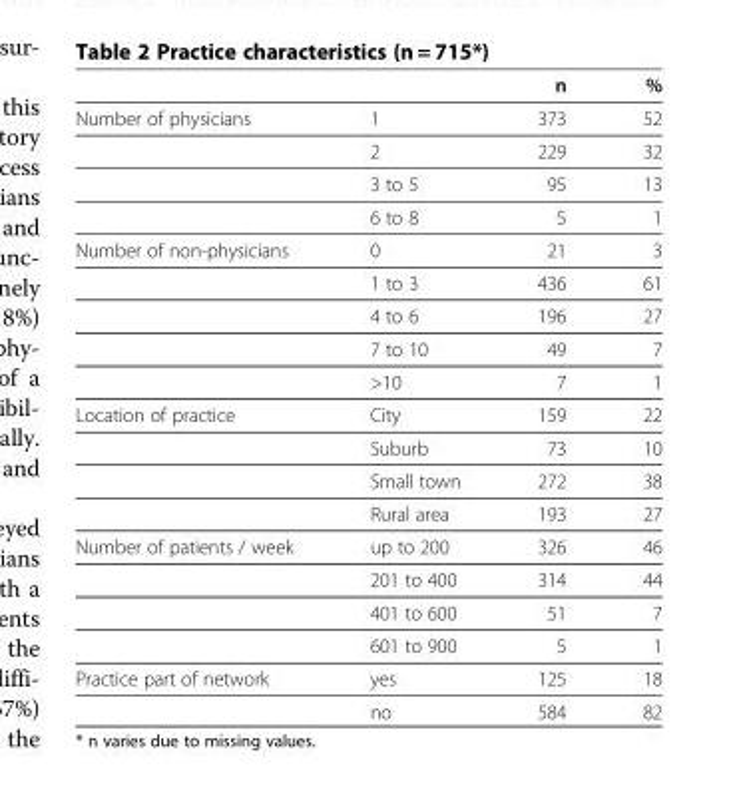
<table><thead><tr><td></td><td></td><td>n</td><td>%</td></tr></thead><tbody><tr><td rowspan="4">Number of physicians</td><td>1</td><td>373</td><td>52</td></tr><tr><td>2</td><td>229</td><td>32</td></tr><tr><td>3 to 5</td><td>95</td><td>13</td></tr><tr><td>6 to 8</td><td>5</td><td>1</td></tr><tr><td rowspan="5">Number of non-physicians</td><td>0</td><td>21</td><td>3</td></tr><tr><td>1 to 3</td><td>436</td><td>61</td></tr><tr><td>4 to 6</td><td>196</td><td>27</td></tr><tr><td>7 to 10</td><td>49</td><td>7</td></tr><tr><td>&gt;10</td><td>7</td><td>1</td></tr><tr><td rowspan="4">Location of practice</td><td>City</td><td>159</td><td>22</td></tr><tr><td>Suburb</td><td>73</td><td>10</td></tr><tr><td>Small town</td><td>272</td><td>38</td></tr><tr><td>Rural area</td><td>193</td><td>27</td></tr><tr><td rowspan="4">Number of patients / week</td><td>up to 200</td><td>326</td><td>46</td></tr><tr><td>201 to 400</td><td>314</td><td>44</td></tr><tr><td>401 to 600</td><td>51</td><td>7</td></tr><tr><td>601 to 900</td><td>5</td><td>1</td></tr><tr><td rowspan="2">Practice part of network</td><td>yes</td><td>125</td><td>18</td></tr><tr><td>no</td><td>584</td><td>82</td></tr></tbody></table>